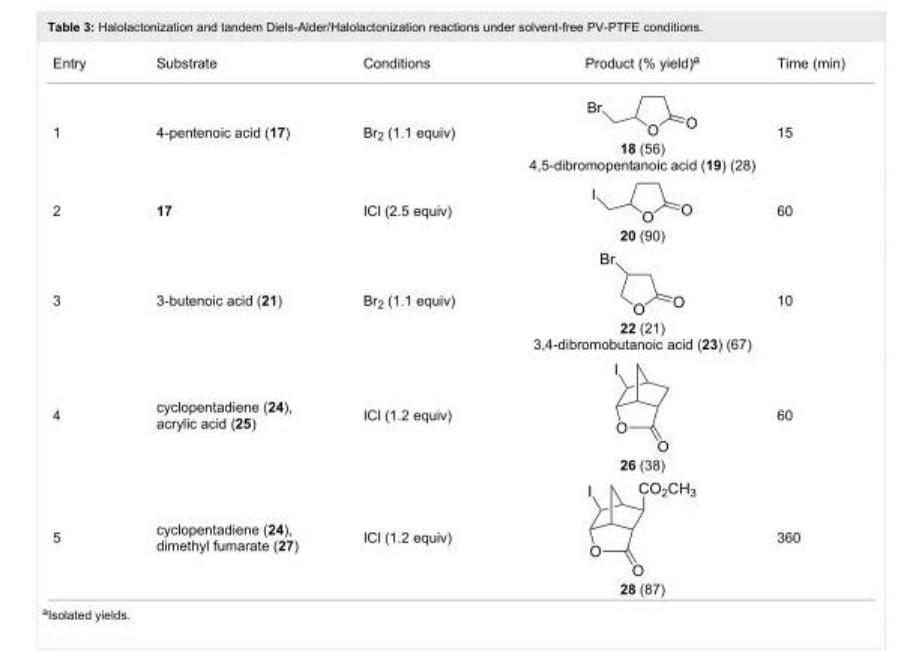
<table><tbody><tr><td>Entry</td><td>Substrate</td><td>Conditions</td><td>Product (% yield)<sup>a</sup></td><td>Time (min)</td></tr><tr><td>1</td><td>4-pentenoic acid (17)</td><td>Br<sub>2</sub> (1.1 equiv)</td><td>18 (56) 4,5-dibromopentanoic acid (19) (28)</td><td>15</td></tr><tr><td>2</td><td>17</td><td>ICl (2.5 equiv)</td><td>20 (90)</td><td>60</td></tr><tr><td>3</td><td>3-butenoic acid (21)</td><td>Br<sub>2</sub> (1.1 equiv)</td><td>22 (21) 3,4-dibromobutanoic acid (23) (67)</td><td>10</td></tr><tr><td>4</td><td>cyclopentadiene (24), acrylic acid (25)</td><td>ICl (1.2 equiv)</td><td>26 (38)</td><td>60</td></tr><tr><td>5</td><td>cyclopentadiene (24), dimethyl fumarate (27)</td><td>ICl (1.2 equiv)</td><td>28 (87)</td><td>360</td></tr></tbody></table>